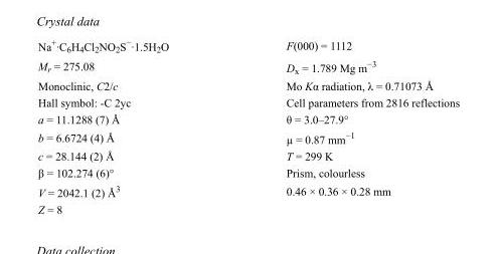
<table><tbody><tr><td>Na<sup>+</sup>·C<sub>6</sub>H<sub>4</sub>Cl<sub>2</sub>NO<sub>2</sub>S<sup>−</sup>·1.5H<sub>2</sub>O</td><td>F(000) = 1112</td></tr><tr><td>M<sub>r</sub> = 275.08</td><td>D<sub>x</sub> = 1.789 Mg m<sup>−3</sup></td></tr><tr><td>Monoclinic, C2/c</td><td>Mo Kα radiation, λ = 0.71073 Å</td></tr><tr><td>Hall symbol: -C 2yc</td><td>Cell parameters from 2816 reflections</td></tr><tr><td>a = 11.1288 (7) Å</td><td>θ = 3.0–27.9°</td></tr><tr><td>b = 6.6724 (4) Å</td><td>µ = 0.87 mm<sup>−1</sup></td></tr><tr><td>c = 28.144 (2) Å</td><td>T = 299 K</td></tr><tr><td>β = 102.274 (6)°</td><td>Prism, colourless</td></tr><tr><td>V = 2042.1 (2) Å<sup>3</sup></td><td>0.46 × 0.36 × 0.28 mm</td></tr><tr><td>Z = 8</td><td></td></tr></tbody></table>